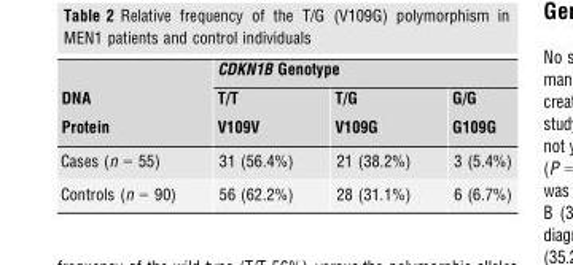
<table><thead><tr><td rowspan="3">DNA Protein</td><td colspan="3">CDKN1B Genotype</td></tr><tr><td rowspan="2">T/T V109V</td><td rowspan="2">T/G V109G</td><td rowspan="2">G/G G109G</td></tr><tr></tr></thead><tbody><tr><td>Cases (n = 55)</td><td>31 (56.4%)</td><td>21 (38.2%)</td><td>3 (5.4%)</td></tr><tr><td>Controls (n = 90)</td><td>56 (62.2%)</td><td>28 (31.1%)</td><td>6 (6.7%)</td></tr></tbody></table>